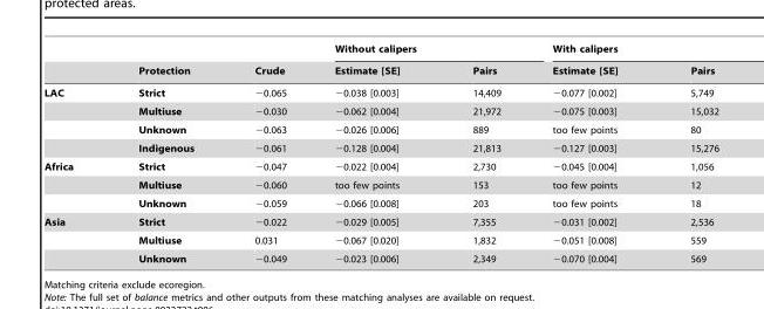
<table><thead><tr><td rowspan="2"></td><td rowspan="2">Protection</td><td rowspan="2">Crude</td><td colspan="2">Without calipers</td><td colspan="2">With calipers</td></tr><tr><td>Estimate [SE]</td><td>Pairs</td><td>Estimate [SE]</td><td>Pairs</td></tr></thead><tbody><tr><td rowspan="4">LAC</td><td>Strict</td><td>−0.065</td><td>−0.038 [0.003]</td><td>14,409</td><td>−0.077 [0.002]</td><td>5,749</td></tr><tr><td>Multiuse</td><td>−0.030</td><td>−0.062 [0.004]</td><td>21,972</td><td>−0.075 [0.003]</td><td>15,032</td></tr><tr><td>Unknown</td><td>−0.063</td><td>−0.026 [0.006]</td><td>889</td><td>too few points</td><td>80</td></tr><tr><td>Indigenous</td><td>−0.061</td><td>−0.128 [0.004]</td><td>21,813</td><td>−0.127 [0.003]</td><td>15,276</td></tr><tr><td rowspan="3">Africa</td><td>Strict</td><td>−0.047</td><td>−0.022 [0.004]</td><td>2,730</td><td>−0.045 [0.004]</td><td>1,056</td></tr><tr><td>Multiuse</td><td>−0.060</td><td>too few points</td><td>153</td><td>too few points</td><td>12</td></tr><tr><td>Unknown</td><td>−0.059</td><td>−0.066 [0.008]</td><td>203</td><td>too few points</td><td>18</td></tr><tr><td rowspan="3">Asia</td><td>Strict</td><td>−0.022</td><td>−0.029 [0.005]</td><td>7,355</td><td>−0.031 [0.002]</td><td>2,536</td></tr><tr><td>Multiuse</td><td>0.031</td><td>−0.067 [0.020]</td><td>1,832</td><td>−0.051 [0.008]</td><td>559</td></tr><tr><td>Unknown</td><td>−0.049</td><td>−0.023 [0.006]</td><td>2,349</td><td>−0.070 [0.004]</td><td>569</td></tr></tbody></table>